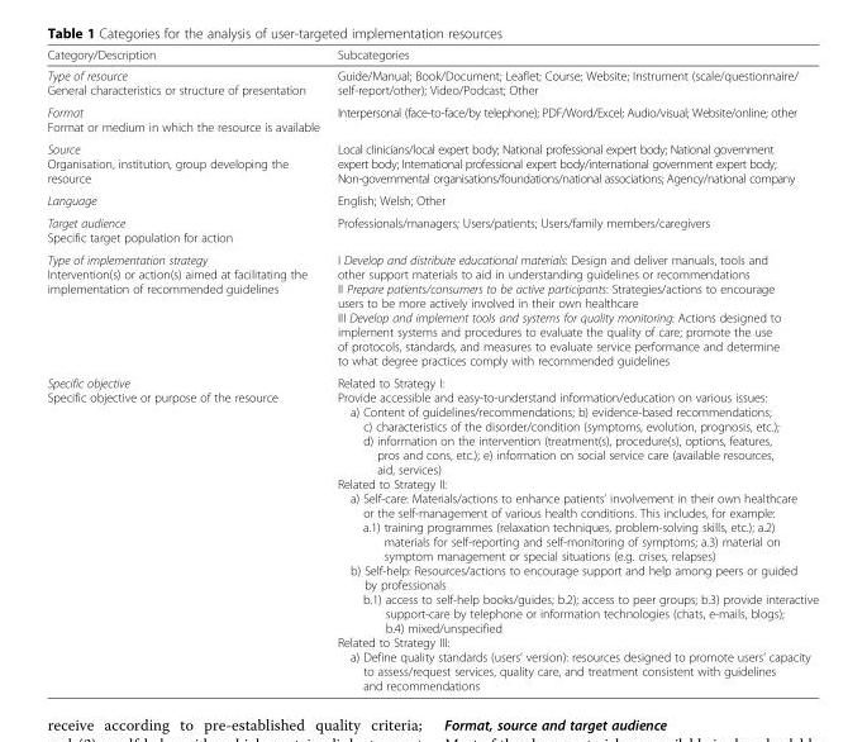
<table><thead><tr><td>Category/Description</td><td>Subcategories</td></tr></thead><tbody><tr><td>Type of resource General characteristics or structure of presentation</td><td>Guide/Manual; Book/Document; Leaflet; Course; Website; Instrument (scale/questionnaire/ self-report/other); Video/Podcast; Other</td></tr><tr><td>Format Format or medium in which the resource is available</td><td>Interpersonal (face-to-face/by telephone); PDF/Word/Excel; Audio/visual; Website/online; other</td></tr><tr><td>Source Organisation, institution, group developing the resource</td><td>Local clinicians/local expert body; National professional expert body; National government expert body; International professional expert body/international government expert body; Non-governmental organisations/foundations/national associations; Agency/national company</td></tr><tr><td>Language</td><td>English; Welsh; Other</td></tr><tr><td>Target audience Specific target population for action</td><td>Professionals/managers; Users/patients; Users/family members/caregivers</td></tr><tr><td>Type of implementation strategy Intervention(s) or action(s) aimed at facilitating the implementation of recommended guidelines</td><td>I Develop and distribute educational materials: Design and deliver manuals, tools and other support materials to aid in understanding guidelines or recommendations II Prepare patients/consumers to be active participants: Strategies/actions to encourage users to be more actively involved in their own healthcare III Develop and implement tools and systems for quality monitoring: Actions designed to implement systems and procedures to evaluate the quality of care; promote the use of protocols, standards, and measures to evaluate service performance and determine to what degree practices comply with recommended guidelines</td></tr><tr><td>Specific objective Specific objective or purpose of the resource</td><td>Related to Strategy I: Provide accessible and easy-to-understand information/education on various issues: a) Content of guidelines/recommendations; b) evidence-based recommendations; c) characteristics of the disorder/condition (symptoms, evolution, prognosis, etc.); d) information on the intervention (treatment(s), procedure(s), options, features, pros and cons, etc.); e) information on social service care (available resources, aid, services) Related to Strategy II: a) Self-care: Materials/actions to enhance patients’ involvement in their own healthcare or the self-management of various health conditions. This includes, for example: a.1) training programmes (relaxation techniques, problem-solving skills, etc.); a.2) materials for self-reporting and self-monitoring of symptoms; a.3) material on symptom management or special situations (e.g. crises, relapses) b) Self-help: Resources/actions to encourage support and help among peers or guided by professionals b.1) access to self-help books/guides; b.2); access to peer groups; b.3) provide interactive support-care by telephone or information technologies (chats, e-mails, blogs); b.4) mixed/unspecified Related to Strategy III: a) Define quality standards (users’ version): resources designed to promote users’ capacity to assess/request services, quality care, and treatment consistent with guidelines and recommendations</td></tr></tbody></table>